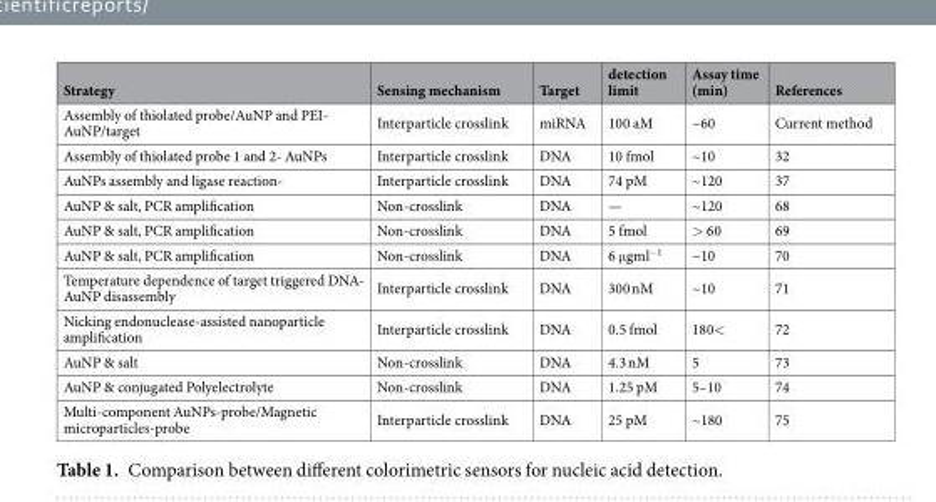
<table><thead><tr><td>Strategy</td><td>Sensing mechanism</td><td>Target</td><td>detection limit</td><td>Assay time (min)</td><td>References</td></tr></thead><tbody><tr><td>Assembly of thiolated probe/AuNP and PEI- AuNP/target</td><td>Interparticle crosslink</td><td>miRNA</td><td>100 aM</td><td>~60</td><td>Current method</td></tr><tr><td>Assembly of thiolated probe 1 and 2- AuNPs</td><td>Interparticle crosslink</td><td>DNA</td><td>10 fmol</td><td>~10</td><td>32</td></tr><tr><td>AuNPs assembly and ligase reaction-</td><td>Interparticle crosslink</td><td>DNA</td><td>74 pM</td><td>~120</td><td>37</td></tr><tr><td>AuNP &amp; salt, PCR amplification</td><td>Non-crosslink</td><td>DNA</td><td>—</td><td>~120</td><td>68</td></tr><tr><td>AuNP &amp; salt, PCR amplification</td><td>Non-crosslink</td><td>DNA</td><td>5 fmol</td><td>&gt; 60</td><td>69</td></tr><tr><td>AuNP &amp; salt, PCR amplification</td><td>Non-crosslink</td><td>DNA</td><td>6 μgml<sup>−1</sup></td><td>~10</td><td>70</td></tr><tr><td>Temperature dependence of target triggered DNA- AuNP disassembly</td><td>Interparticle crosslink</td><td>DNA</td><td>300 nM</td><td>~10</td><td>71</td></tr><tr><td>Nicking endonuclease-assisted nanoparticle amplification</td><td>Interparticle crosslink</td><td>DNA</td><td>0.5 fmol</td><td>180&lt;</td><td>72</td></tr><tr><td>AuNP &amp; salt</td><td>Non-crosslink</td><td>DNA</td><td>4.3 nM</td><td>5</td><td>73</td></tr><tr><td>AuNP &amp; conjugated Polyelectrolyte</td><td>Non-crosslink</td><td>DNA</td><td>1.25 pM</td><td>5–10</td><td>74</td></tr><tr><td>Multi-component AuNPs-probe/Magnetic microparticles-probe</td><td>Interparticle crosslink</td><td>DNA</td><td>25 pM</td><td>~180</td><td>75</td></tr></tbody></table>